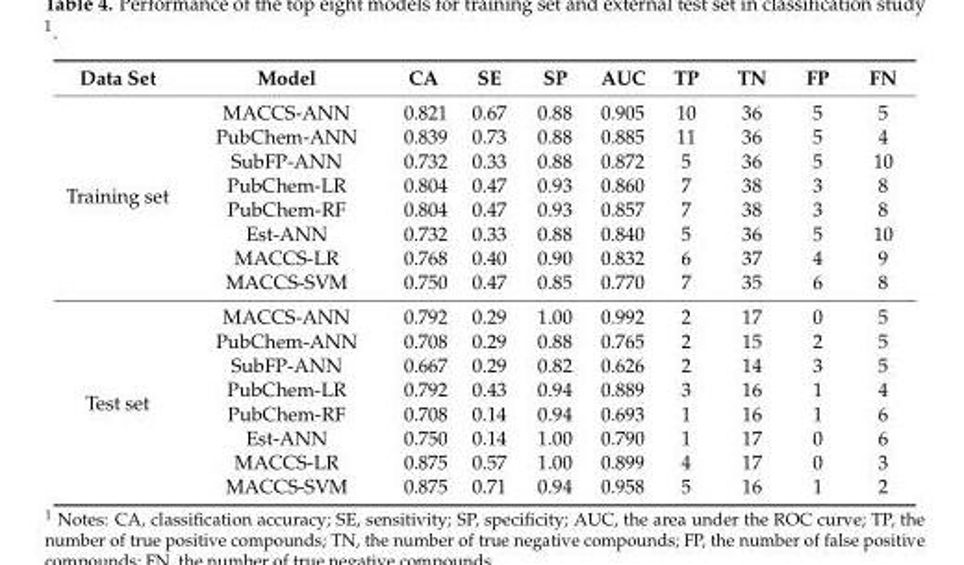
<table><thead><tr><td>Data Set</td><td>Model</td><td>CA</td><td>SE</td><td>SP</td><td>AUC</td><td>TP</td><td>TN</td><td>FP</td><td>FN</td></tr></thead><tbody><tr><td rowspan="8">Training set</td><td>MACCS-ANN</td><td>0.821</td><td>0.67</td><td>0.88</td><td>0.905</td><td>10</td><td>36</td><td>5</td><td>5</td></tr><tr><td>PubChem-ANN</td><td>0.839</td><td>0.73</td><td>0.88</td><td>0.885</td><td>11</td><td>36</td><td>5</td><td>4</td></tr><tr><td>SubFP-ANN</td><td>0.732</td><td>0.33</td><td>0.88</td><td>0.872</td><td>5</td><td>36</td><td>5</td><td>10</td></tr><tr><td>PubChem-LR</td><td>0.804</td><td>0.47</td><td>0.93</td><td>0.860</td><td>7</td><td>38</td><td>3</td><td>8</td></tr><tr><td>PubChem-RF</td><td>0.804</td><td>0.47</td><td>0.93</td><td>0.857</td><td>7</td><td>38</td><td>3</td><td>8</td></tr><tr><td>Est-ANN</td><td>0.732</td><td>0.33</td><td>0.88</td><td>0.840</td><td>5</td><td>36</td><td>5</td><td>10</td></tr><tr><td>MACCS-LR</td><td>0.768</td><td>0.40</td><td>0.90</td><td>0.832</td><td>6</td><td>37</td><td>4</td><td>9</td></tr><tr><td>MACCS-SVM</td><td>0.750</td><td>0.47</td><td>0.85</td><td>0.770</td><td>7</td><td>35</td><td>6</td><td>8</td></tr><tr><td rowspan="8">Test set</td><td>MACCS-ANN</td><td>0.792</td><td>0.29</td><td>1.00</td><td>0.992</td><td>2</td><td>17</td><td>0</td><td>5</td></tr><tr><td>PubChem-ANN</td><td>0.708</td><td>0.29</td><td>0.88</td><td>0.765</td><td>2</td><td>15</td><td>2</td><td>5</td></tr><tr><td>SubFP-ANN</td><td>0.667</td><td>0.29</td><td>0.82</td><td>0.626</td><td>2</td><td>14</td><td>3</td><td>5</td></tr><tr><td>PubChem-LR</td><td>0.792</td><td>0.43</td><td>0.94</td><td>0.889</td><td>3</td><td>16</td><td>1</td><td>4</td></tr><tr><td>PubChem-RF</td><td>0.708</td><td>0.14</td><td>0.94</td><td>0.693</td><td>1</td><td>16</td><td>1</td><td>6</td></tr><tr><td>Est-ANN</td><td>0.750</td><td>0.14</td><td>1.00</td><td>0.790</td><td>1</td><td>17</td><td>0</td><td>6</td></tr><tr><td>MACCS-LR</td><td>0.875</td><td>0.57</td><td>1.00</td><td>0.899</td><td>4</td><td>17</td><td>0</td><td>3</td></tr><tr><td>MACCS-SVM</td><td>0.875</td><td>0.71</td><td>0.94</td><td>0.958</td><td>5</td><td>16</td><td>1</td><td>2</td></tr></tbody></table>